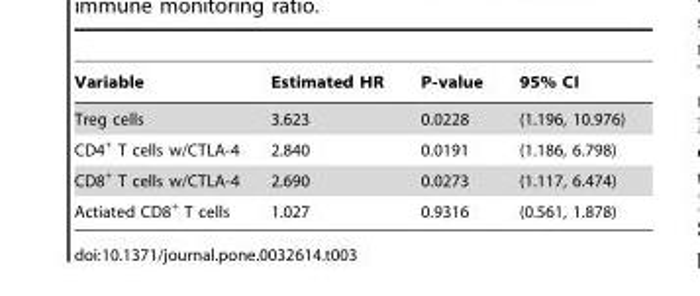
<table><thead><tr><td>Variable</td><td>Estimated HR</td><td>P-value</td><td>95% CI</td></tr></thead><tbody><tr><td>Treg cells</td><td>3.623</td><td>0.0228</td><td>(1.196, 10.976)</td></tr><tr><td>CD4<sup>+</sup> T cells w/CTLA-4</td><td>2.840</td><td>0.0191</td><td>(1.186, 6.798)</td></tr><tr><td>CD8<sup>+</sup> T cells w/CTLA-4</td><td>2.690</td><td>0.0273</td><td>(1.117, 6.474)</td></tr><tr><td>Actiated CD8<sup>+</sup> T cells</td><td>1.027</td><td>0.9316</td><td>(0.561, 1.878)</td></tr></tbody></table>